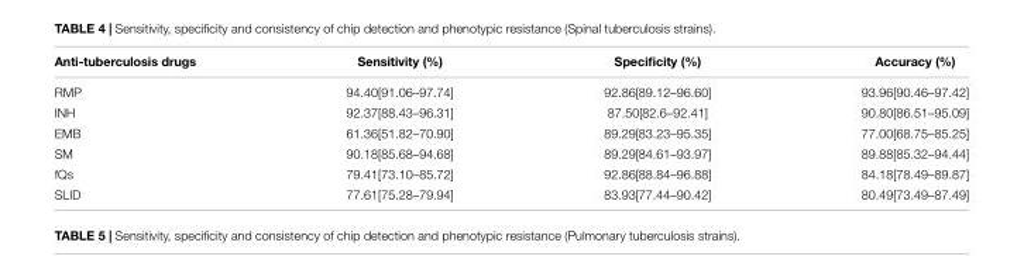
<table><thead><tr><td>Anti-tuberculosis drugs</td><td>Sensitivity (%)</td><td>Specificity (%)</td><td>Accuracy (%)</td></tr></thead><tbody><tr><td>RMP</td><td>94.40[91.06–97.74]</td><td>92.86[89.12–96.60]</td><td>93.96[90.46–97.42]</td></tr><tr><td>INH</td><td>92.37[88.43–96.31]</td><td>87.50[82.6–92.41]</td><td>90.80[86.51–95.09]</td></tr><tr><td>EMB</td><td>61.36[51.82–70.90]</td><td>89.29[83.23–95.35]</td><td>77.00[68.75–85.25]</td></tr><tr><td>SM</td><td>90.18[85.68–94.68]</td><td>89.29[84.61–93.97]</td><td>89.88[85.32–94.44]</td></tr><tr><td>fQs</td><td>79.41[73.10–85.72]</td><td>92.86[88.84–96.88]</td><td>84.18[78.49–89.87]</td></tr><tr><td>SLID</td><td>77.61[75.28–79.94]</td><td>83.93[77.44–90.42]</td><td>80.49[73.49–87.49]</td></tr></tbody></table>